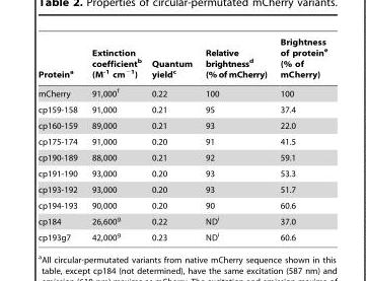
<table><thead><tr><td>Protein<sup>a</sup></td><td>Extinction coefficient<sup>b</sup> (M<sup>-1</sup> cm<sup>−1</sup>)</td><td>Quantum yield<sup>c</sup></td><td>Relative brightness<sup>d</sup> (% of mCherry)</td><td>Brightness of protein<sup>e</sup> (% of mCherry)</td></tr></thead><tbody><tr><td>mCherry</td><td>91,000<sup>f</sup></td><td>0.22</td><td>100</td><td>100</td></tr><tr><td>cp159-158</td><td>91,000</td><td>0.21</td><td>95</td><td>37.4</td></tr><tr><td>cp160-159</td><td>89,000</td><td>0.21</td><td>93</td><td>22.0</td></tr><tr><td>cp175-174</td><td>91,000</td><td>0.20</td><td>91</td><td>41.5</td></tr><tr><td>cp190-189</td><td>88,000</td><td>0.21</td><td>92</td><td>59.1</td></tr><tr><td>cp191-190</td><td>93,000</td><td>0.20</td><td>93</td><td>53.3</td></tr><tr><td>cp193-192</td><td>93,000</td><td>0.20</td><td>93</td><td>51.7</td></tr><tr><td>cp194-193</td><td>90,000</td><td>0.20</td><td>90</td><td>60.6</td></tr><tr><td>cp184</td><td>26,600<sup>g</sup></td><td>0.22</td><td>ND<sup>i</sup></td><td>37.0</td></tr><tr><td>cp193g7</td><td>42,000<sup>g</sup></td><td>0.23</td><td>ND<sup>i</sup></td><td>60.6</td></tr></tbody></table>